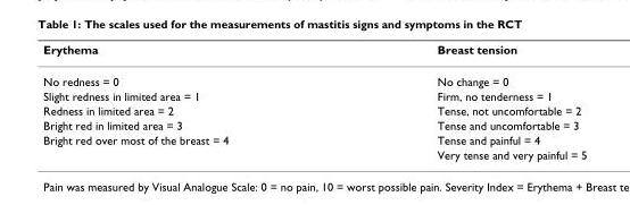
<table><thead><tr><td>Erythema</td><td>Breast tension</td></tr></thead><tbody><tr><td>No redness = 0</td><td>No change = 0</td></tr><tr><td>Slight redness in limited area = 1</td><td>Firm, no tenderness = 1</td></tr><tr><td>Redness in limited area = 2</td><td>Tense, not uncomfortable = 2</td></tr><tr><td>Bright red in limited area = 3</td><td>Tense and uncomfortable = 3</td></tr><tr><td rowspan="2">Bright red over most of the breast = 4</td><td>Tense and painful = 4</td></tr><tr><td>Very tense and very painful = 5</td></tr></tbody></table>